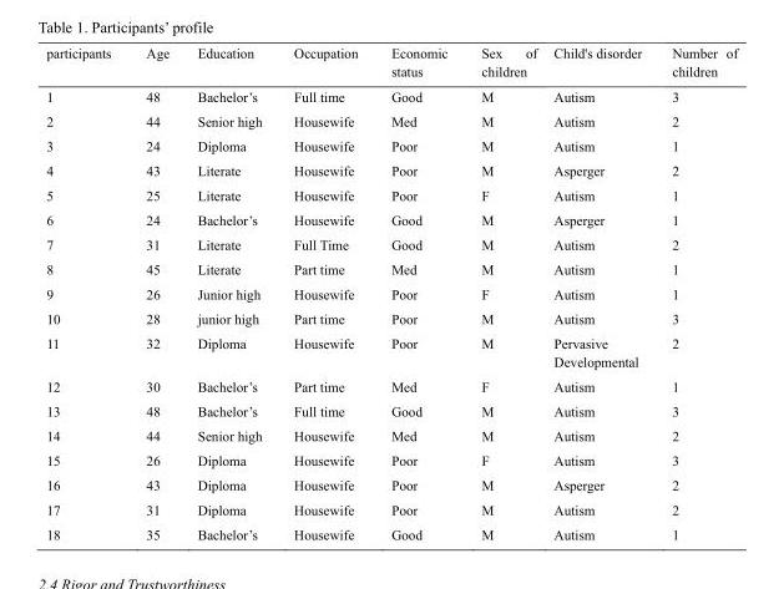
<table><thead><tr><td>participants</td><td>Age</td><td>Education</td><td>Occupation</td><td>Economic status</td><td>Sex of children</td><td>Child&#x27;s disorder</td><td>Number of children</td></tr></thead><tbody><tr><td>1</td><td>48</td><td>Bachelor’s</td><td>Full time</td><td>Good</td><td>M</td><td>Autism</td><td>3</td></tr><tr><td>2</td><td>44</td><td>Senior high</td><td>Housewife</td><td>Med</td><td>M</td><td>Autism</td><td>2</td></tr><tr><td>3</td><td>24</td><td>Diploma</td><td>Housewife</td><td>Poor</td><td>M</td><td>Autism</td><td>1</td></tr><tr><td>4</td><td>43</td><td>Literate</td><td>Housewife</td><td>Poor</td><td>M</td><td>Asperger</td><td>2</td></tr><tr><td>5</td><td>25</td><td>Literate</td><td>Housewife</td><td>Poor</td><td>F</td><td>Autism</td><td>1</td></tr><tr><td>6</td><td>24</td><td>Bachelor’s</td><td>Housewife</td><td>Good</td><td>M</td><td>Asperger</td><td>1</td></tr><tr><td>7</td><td>31</td><td>Literate</td><td>Full Time</td><td>Good</td><td>M</td><td>Autism</td><td>2</td></tr><tr><td>8</td><td>45</td><td>Literate</td><td>Part time</td><td>Med</td><td>M</td><td>Autism</td><td>1</td></tr><tr><td>9</td><td>26</td><td>Junior high</td><td>Housewife</td><td>Poor</td><td>F</td><td>Autism</td><td>1</td></tr><tr><td>10</td><td>28</td><td>junior high</td><td>Part time</td><td>Poor</td><td>M</td><td>Autism</td><td>3</td></tr><tr><td>11</td><td>32</td><td>Diploma</td><td>Housewife</td><td>Poor</td><td>M</td><td>Pervasive Developmental</td><td>2</td></tr><tr><td>12</td><td>30</td><td>Bachelor’s</td><td>Part time</td><td>Med</td><td>F</td><td>Autism</td><td>1</td></tr><tr><td>13</td><td>48</td><td>Bachelor’s</td><td>Full time</td><td>Good</td><td>M</td><td>Autism</td><td>3</td></tr><tr><td>14</td><td>44</td><td>Senior high</td><td>Housewife</td><td>Med</td><td>M</td><td>Autism</td><td>2</td></tr><tr><td>15</td><td>26</td><td>Diploma</td><td>Housewife</td><td>Poor</td><td>F</td><td>Autism</td><td>3</td></tr><tr><td>16</td><td>43</td><td>Diploma</td><td>Housewife</td><td>Poor</td><td>M</td><td>Asperger</td><td>2</td></tr><tr><td>17</td><td>31</td><td>Diploma</td><td>Housewife</td><td>Poor</td><td>M</td><td>Autism</td><td>2</td></tr><tr><td>18</td><td>35</td><td>Bachelor’s</td><td>Housewife</td><td>Good</td><td>M</td><td>Autism</td><td>1</td></tr></tbody></table>